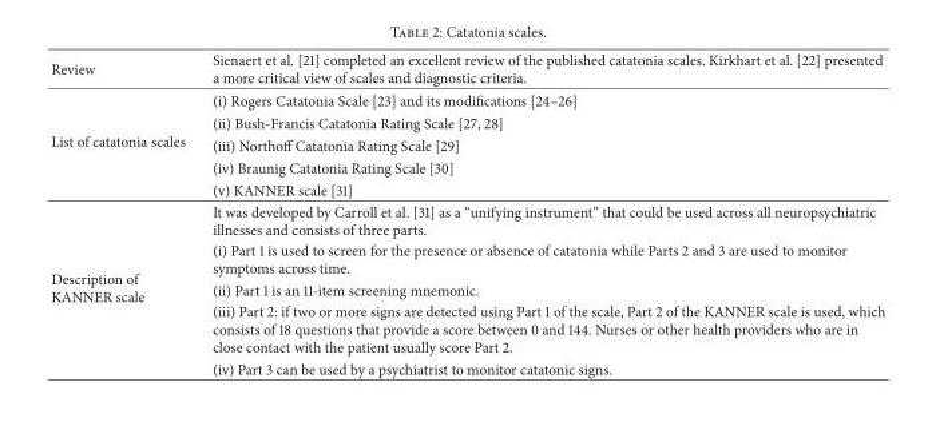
<table><tbody><tr><td>Review</td><td>Sienaert et al. [21] completed an excellent review of the published catatonia scales. Kirkhart et al. [22] presented a more critical view of scales and diagnostic criteria.</td></tr><tr><td rowspan="5">List of catatonia scales</td><td>(i) Rogers Catatonia Scale [23] and its modifications [24–26]</td></tr><tr><td>(ii) Bush-Francis Catatonia Rating Scale [27, 28]</td></tr><tr><td>(iii) Northoff Catatonia Rating Scale [29]</td></tr><tr><td>(iv) Braunig Catatonia Rating Scale [30]</td></tr><tr><td>(v) KANNER scale [31]</td></tr><tr><td rowspan="5">Description of KANNER scale</td><td>It was developed by Carroll et al. [31] as a “unifying instrument” that could be used across all neuropsychiatric illnesses and consists of three parts.</td></tr><tr><td>(i) Part 1 is used to screen for the presence or absence of catatonia while Parts 2 and 3 are used to monitor symptoms across time.</td></tr><tr><td>(ii) Part 1 is an 11-item screening mnemonic.</td></tr><tr><td>(iii) Part 2: if two or more signs are detected using Part 1 of the scale, Part 2 of the KANNER scale is used, which consists of 18 questions that provide a score between 0 and 144. Nurses or other health providers who are in close contact with the patient usually score Part 2.</td></tr><tr><td>(iv) Part 3 can be used by a psychiatrist to monitor catatonic signs.</td></tr></tbody></table>